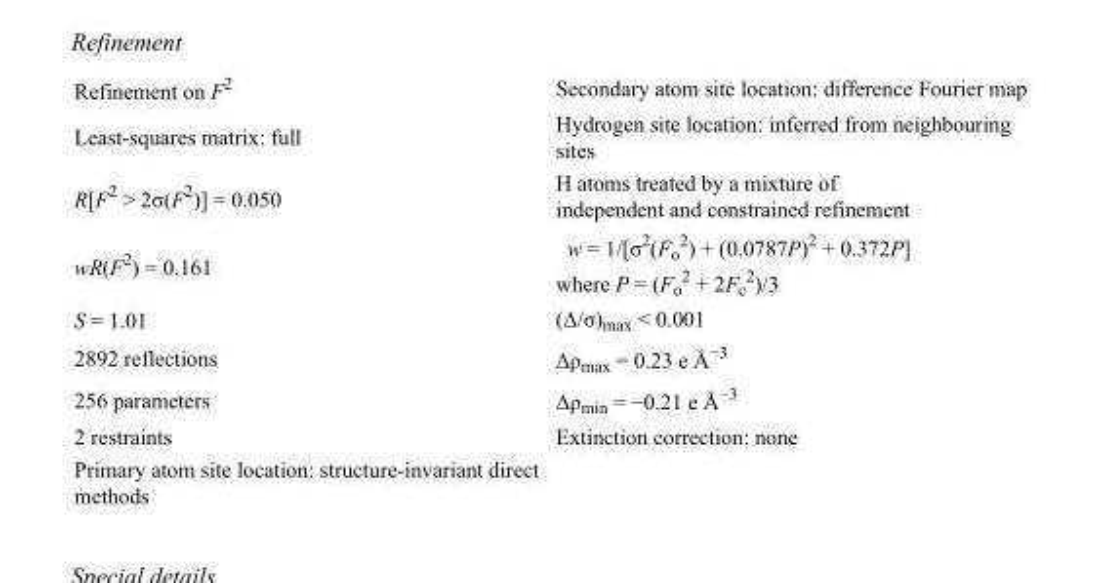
<table><tbody><tr><td>Refinement on F<sup>2</sup></td><td>Secondary atom site location: difference Fourier map</td></tr><tr><td>Least-squares matrix: full</td><td>Hydrogen site location: inferred from neighbouring sites</td></tr><tr><td>R[F<sup>2</sup> &gt; 2σ(F<sup>2</sup>)] = 0.050</td><td>H atoms treated by a mixture of independent and constrained refinement</td></tr><tr><td>wR(F<sup>2</sup>) = 0.161</td><td>w = 1/[σ<sup>2</sup>(F<sub>o</sub> <sup>2</sup>) + (0.0787P)<sup>2</sup> + 0.372P] where P = (F<sub>o</sub> <sup>2</sup> + 2F<sub>c</sub> <sup>2</sup>)/3</td></tr><tr><td>S = 1.01</td><td>(Δ/σ)<sub>max</sub> &lt; 0.001</td></tr><tr><td>2892 reflections</td><td>Δρ<sub>max</sub> = 0.23 e Å<sup>−3</sup></td></tr><tr><td>256 parameters</td><td>Δρ<sub>min</sub> = −0.21 e Å<sup>−3</sup></td></tr><tr><td>2 restraints</td><td>Extinction correction: none</td></tr><tr><td>Primary atom site location: structure-invariant direct methods</td><td></td></tr></tbody></table>